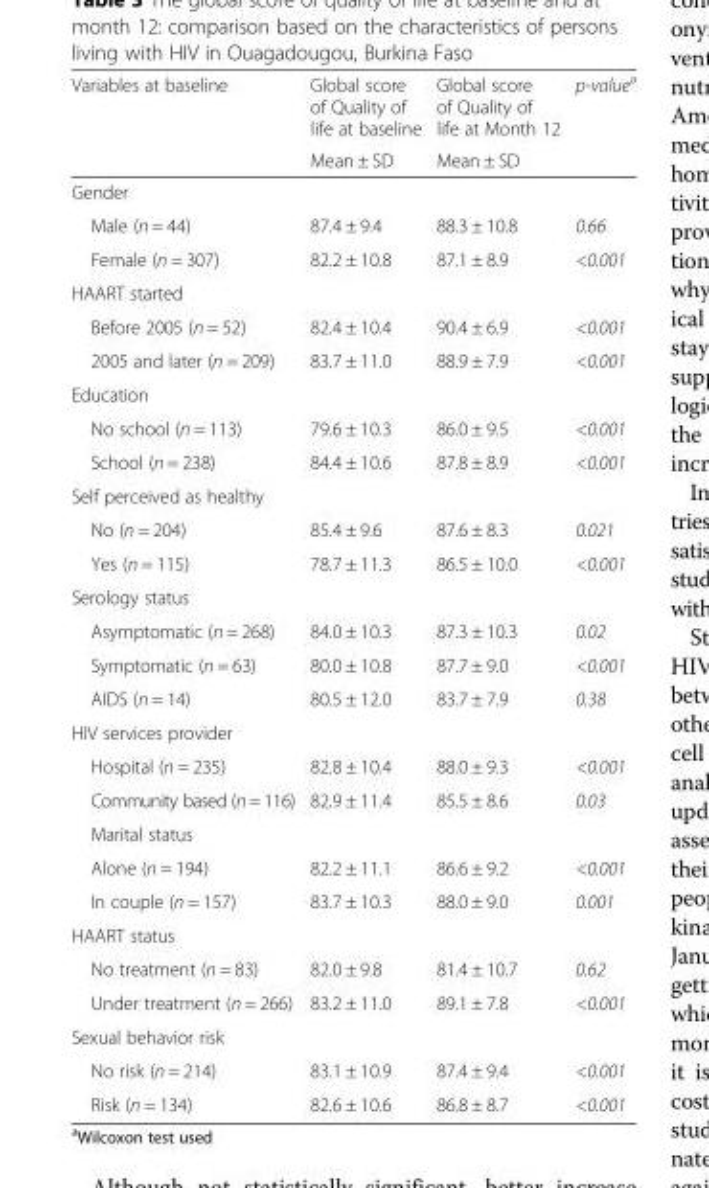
<table><thead><tr><td rowspan="2">Variables at baseline</td><td rowspan="2">Global score of Quality of life at baseline Mean ± SD</td><td rowspan="2">Global score of Quality of life at Month 12 Mean ± SD</td><td rowspan="2">p-value<sup>a</sup></td></tr><tr></tr></thead><tbody><tr><td colspan="4">Gender</td></tr><tr><td>Male (n = 44)</td><td>87.4 ± 9.4</td><td>88.3 ± 10.8</td><td>0.66</td></tr><tr><td>Female (n = 307)</td><td>82.2 ± 10.8</td><td>87.1 ± 8.9</td><td>&lt;0.001</td></tr><tr><td colspan="4">HAART started</td></tr><tr><td>Before 2005 (n = 52)</td><td>82.4 ± 10.4</td><td>90.4 ± 6.9</td><td>&lt;0.001</td></tr><tr><td>2005 and later (n = 209)</td><td>83.7 ± 11.0</td><td>88.9 ± 7.9</td><td>&lt;0.001</td></tr><tr><td colspan="4">Education</td></tr><tr><td>No school (n = 113)</td><td>79.6 ± 10.3</td><td>86.0 ± 9.5</td><td>&lt;0.001</td></tr><tr><td>School (n = 238)</td><td>84.4 ± 10.6</td><td>87.8 ± 8.9</td><td>&lt;0.001</td></tr><tr><td colspan="4">Self perceived as healthy</td></tr><tr><td>No (n = 204)</td><td>85.4 ± 9.6</td><td>87.6 ± 8.3</td><td>0.021</td></tr><tr><td>Yes (n = 115)</td><td>78.7 ± 11.3</td><td>86.5 ± 10.0</td><td>&lt;0.001</td></tr><tr><td colspan="4">Serology status</td></tr><tr><td>Asymptomatic (n = 268)</td><td>84.0 ± 10.3</td><td>87.3 ± 10.3</td><td>0.02</td></tr><tr><td>Symptomatic (n = 63)</td><td>80.0 ± 10.8</td><td>87.7 ± 9.0</td><td>&lt;0.001</td></tr><tr><td>AIDS (n = 14)</td><td>80.5 ± 12.0</td><td>83.7 ± 7.9</td><td>0.38</td></tr><tr><td colspan="4">HIV services provider</td></tr><tr><td>Hospital (n = 235)</td><td>82.8 ± 10.4</td><td>88.0 ± 9.3</td><td>&lt;0.001</td></tr><tr><td>Community based (n = 116)</td><td>82.9 ± 11.4</td><td>85.5 ± 8.6</td><td>0.03</td></tr><tr><td colspan="4">Marital status</td></tr><tr><td>Alone (n = 194)</td><td>82.2 ± 11.1</td><td>86.6 ± 9.2</td><td>&lt;0.001</td></tr><tr><td>In couple (n = 157)</td><td>83.7 ± 10.3</td><td>88.0 ± 9.0</td><td>0.001</td></tr><tr><td colspan="4">HAART status</td></tr><tr><td>No treatment (n = 83)</td><td>82.0 ± 9.8</td><td>81.4 ± 10.7</td><td>0.62</td></tr><tr><td>Under treatment (n = 266)</td><td>83.2 ± 11.0</td><td>89.1 ± 7.8</td><td>&lt;0.001</td></tr><tr><td colspan="4">Sexual behavior risk</td></tr><tr><td>No risk (n = 214)</td><td>83.1 ± 10.9</td><td>87.4 ± 9.4</td><td>&lt;0.001</td></tr><tr><td>Risk (n = 134)</td><td>82.6 ± 10.6</td><td>86.8 ± 8.7</td><td>&lt;0.001</td></tr></tbody></table>